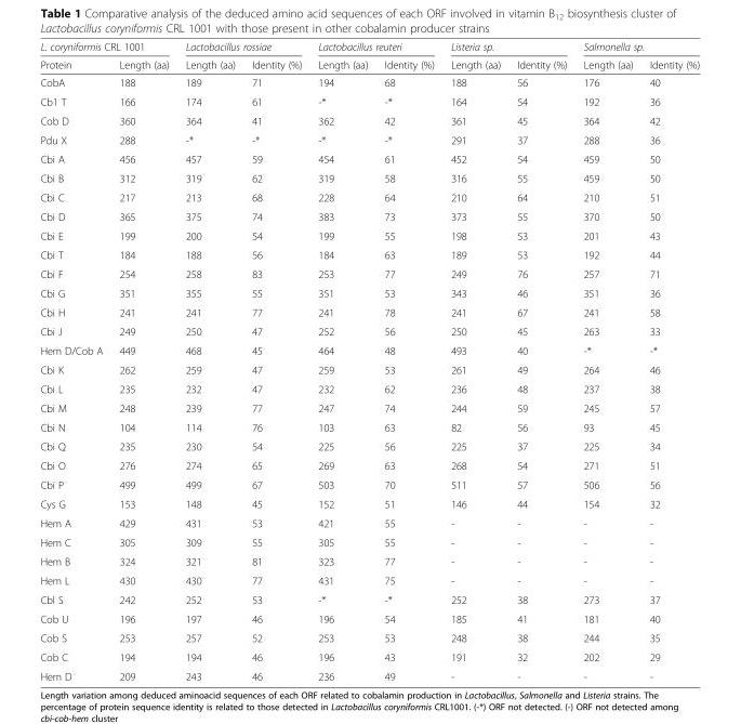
<table><thead><tr><td colspan="2">L. coryniformis CRL 1001</td><td colspan="2">Lactobacillus rossiae</td><td colspan="2">Lactobacillus reuteri</td><td colspan="2">Listeria sp.</td><td colspan="2">Salmonella sp.</td></tr><tr><td>Protein</td><td>Length (aa)</td><td>Length (aa)</td><td>Identity (%)</td><td>Length (aa)</td><td>Identity (%)</td><td>Length (aa)</td><td>Identity (%)</td><td>Length (aa)</td><td>Identity (%)</td></tr></thead><tbody><tr><td>CobA</td><td>188</td><td>189</td><td>71</td><td>194</td><td>68</td><td>188</td><td>56</td><td>176</td><td>40</td></tr><tr><td>Cb1 T</td><td>166</td><td>174</td><td>61</td><td>-*</td><td>-*</td><td>164</td><td>54</td><td>192</td><td>36</td></tr><tr><td>Cob D</td><td>360</td><td>364</td><td>41</td><td>362</td><td>42</td><td>361</td><td>45</td><td>364</td><td>42</td></tr><tr><td>Pdu X</td><td>288</td><td>-*</td><td>-*</td><td>-*</td><td>-*</td><td>291</td><td>37</td><td>288</td><td>36</td></tr><tr><td>Cbi A</td><td>456</td><td>457</td><td>59</td><td>454</td><td>61</td><td>452</td><td>54</td><td>459</td><td>50</td></tr><tr><td>Cbi B</td><td>312</td><td>319</td><td>62</td><td>319</td><td>58</td><td>316</td><td>55</td><td>459</td><td>50</td></tr><tr><td>Cbi C</td><td>217</td><td>213</td><td>68</td><td>228</td><td>64</td><td>210</td><td>64</td><td>210</td><td>51</td></tr><tr><td>Cbi D</td><td>365</td><td>375</td><td>74</td><td>383</td><td>73</td><td>373</td><td>55</td><td>370</td><td>50</td></tr><tr><td>Cbi E</td><td>199</td><td>200</td><td>54</td><td>199</td><td>55</td><td>198</td><td>53</td><td>201</td><td>43</td></tr><tr><td>Cbi T</td><td>184</td><td>188</td><td>56</td><td>184</td><td>63</td><td>189</td><td>53</td><td>192</td><td>44</td></tr><tr><td>Cbi F</td><td>254</td><td>258</td><td>83</td><td>253</td><td>77</td><td>249</td><td>76</td><td>257</td><td>71</td></tr><tr><td>Cbi G</td><td>351</td><td>355</td><td>55</td><td>351</td><td>53</td><td>343</td><td>46</td><td>351</td><td>36</td></tr><tr><td>Cbi H</td><td>241</td><td>241</td><td>77</td><td>241</td><td>78</td><td>241</td><td>67</td><td>241</td><td>58</td></tr><tr><td>Cbi J</td><td>249</td><td>250</td><td>47</td><td>252</td><td>56</td><td>250</td><td>45</td><td>263</td><td>33</td></tr><tr><td>Hem D/Cob A</td><td>449</td><td>468</td><td>45</td><td>464</td><td>48</td><td>493</td><td>40</td><td>-*</td><td>-*</td></tr><tr><td>Cbi K</td><td>262</td><td>259</td><td>47</td><td>259</td><td>53</td><td>261</td><td>49</td><td>264</td><td>46</td></tr><tr><td>Cbi L</td><td>235</td><td>232</td><td>47</td><td>232</td><td>62</td><td>236</td><td>48</td><td>237</td><td>38</td></tr><tr><td>Cbi M</td><td>248</td><td>239</td><td>77</td><td>247</td><td>74</td><td>244</td><td>59</td><td>245</td><td>57</td></tr><tr><td>Cbi N</td><td>104</td><td>114</td><td>76</td><td>103</td><td>63</td><td>82</td><td>56</td><td>93</td><td>45</td></tr><tr><td>Cbi Q</td><td>235</td><td>230</td><td>54</td><td>225</td><td>56</td><td>225</td><td>37</td><td>225</td><td>34</td></tr><tr><td>Cbi O</td><td>276</td><td>274</td><td>65</td><td>269</td><td>63</td><td>268</td><td>54</td><td>271</td><td>51</td></tr><tr><td>Cbi P</td><td>499</td><td>499</td><td>67</td><td>503</td><td>70</td><td>511</td><td>57</td><td>506</td><td>56</td></tr><tr><td>Cys G</td><td>153</td><td>148</td><td>45</td><td>152</td><td>51</td><td>146</td><td>44</td><td>154</td><td>32</td></tr><tr><td>Hem A</td><td>429</td><td>431</td><td>53</td><td>421</td><td>55</td><td>-</td><td>-</td><td>-</td><td>-</td></tr><tr><td>Hem C</td><td>305</td><td>309</td><td>55</td><td>305</td><td>55</td><td>-</td><td>-</td><td>-</td><td>-</td></tr><tr><td>Hem B</td><td>324</td><td>321</td><td>81</td><td>323</td><td>77</td><td>-</td><td>-</td><td>-</td><td>-</td></tr><tr><td>Hem L</td><td>430</td><td>430</td><td>77</td><td>431</td><td>75</td><td>-</td><td>-</td><td>-</td><td>-</td></tr><tr><td>Cbl S</td><td>242</td><td>252</td><td>53</td><td>-*</td><td>-*</td><td>252</td><td>38</td><td>273</td><td>37</td></tr><tr><td>Cob U</td><td>196</td><td>197</td><td>46</td><td>196</td><td>54</td><td>185</td><td>41</td><td>181</td><td>40</td></tr><tr><td>Cob S</td><td>253</td><td>257</td><td>52</td><td>253</td><td>53</td><td>248</td><td>38</td><td>244</td><td>35</td></tr><tr><td>Cob C</td><td>194</td><td>194</td><td>46</td><td>196</td><td>43</td><td>191</td><td>32</td><td>202</td><td>29</td></tr><tr><td>Hem D</td><td>209</td><td>243</td><td>46</td><td>236</td><td>49</td><td>-</td><td>-</td><td>-</td><td>-</td></tr></tbody></table>